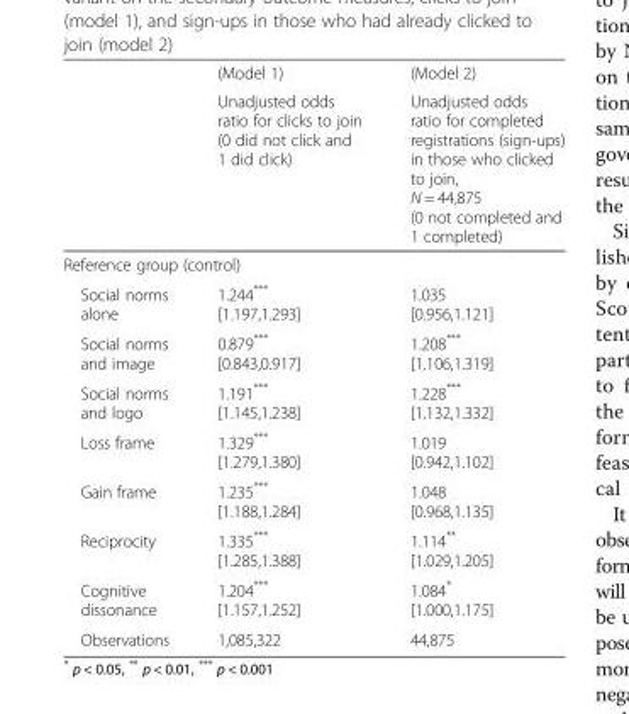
<table><thead><tr><td rowspan="2"></td><td rowspan="2">(Model 1) Unadjusted odds ratio for clicks to join (0 did not click and 1 did click)</td><td rowspan="2">(Model 2) Unadjusted odds ratio for completed registrations (sign-ups) in those who clicked to join, N = 44,875 (0 not completed and 1 completed)</td></tr><tr></tr></thead><tbody><tr><td colspan="3">Reference group (control)</td></tr><tr><td>Social norms alone</td><td>1.244*** [1.197,1.293]</td><td>1.035 [0.956,1.121]</td></tr><tr><td>Social norms and image</td><td>0.879*** [0.843,0.917]</td><td>1.208*** [1.106,1.319]</td></tr><tr><td>Social norms and logo</td><td>1.191*** [1.145,1.238]</td><td>1.228*** [1.132,1.332]</td></tr><tr><td>Loss frame</td><td>1.329*** [1.279,1.380]</td><td>1.019 [0.942,1.102]</td></tr><tr><td>Gain frame</td><td>1.235*** [1.188,1.284]</td><td>1.048 [0.968,1.135]</td></tr><tr><td>Reciprocity</td><td>1.335*** [1.285,1.388]</td><td>1.114** [1.029,1.205]</td></tr><tr><td>Cognitive dissonance</td><td>1.204*** [1.157,1.252]</td><td>1.084* [1.000,1.175]</td></tr><tr><td>Observations</td><td>1,085,322</td><td>44,875</td></tr></tbody></table>